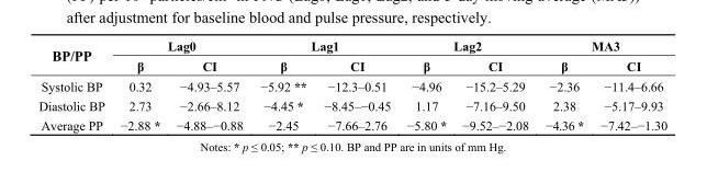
<table><thead><tr><td rowspan="2">BP/PP</td><td colspan="2">Lag0</td><td colspan="2">Lag1</td><td colspan="2">Lag2</td><td colspan="2">MA3</td></tr><tr><td>β</td><td>CI</td><td>β</td><td>CI</td><td>β</td><td>CI</td><td>β</td><td>CI</td></tr></thead><tbody><tr><td>Systolic BP</td><td>0.32</td><td>−4.93–5.57</td><td>−5.92 **</td><td>−12.3–0.51</td><td>−4.96</td><td>−15.2–5.29</td><td>−2.36</td><td>−11.4–6.66</td></tr><tr><td>Diastolic BP</td><td>2.73</td><td>−2.66–8.12</td><td>−4.45 *</td><td>−8.45–−0.45</td><td>1.17</td><td>−7.16–9.50</td><td>2.38</td><td>−5.17–9.93</td></tr><tr><td>Average PP</td><td>−2.88 *</td><td>−4.88–−0.88</td><td>−2.45</td><td>−7.66–2.76</td><td>−5.80 *</td><td>−9.52–−2.08</td><td>−4.36 *</td><td>−7.42–−1.30</td></tr></tbody></table>